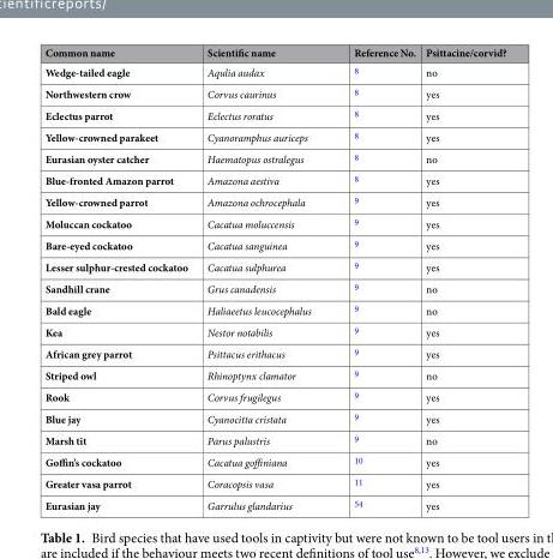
<table><thead><tr><td>Common name</td><td>Scientific name</td><td>Reference No.</td><td>Psittacine/corvid?</td></tr></thead><tbody><tr><td>Wedge-tailed eagle</td><td>Aqulia audax</td><td>8</td><td>no</td></tr><tr><td>Northwestern crow</td><td>Corvus caurinus</td><td>8</td><td>yes</td></tr><tr><td>Eclectus parrot</td><td>Eclectus roratus</td><td>8</td><td>yes</td></tr><tr><td>Yellow-crowned parakeet</td><td>Cyanoramphus auriceps</td><td>8</td><td>yes</td></tr><tr><td>Eurasian oyster catcher</td><td>Haematopus ostralegus</td><td>8</td><td>no</td></tr><tr><td>Blue-fronted Amazon parrot</td><td>Amazona aestiva</td><td>8</td><td>yes</td></tr><tr><td>Yellow-crowned parrot</td><td>Amazona ochrocephala</td><td>9</td><td>yes</td></tr><tr><td>Moluccan cockatoo</td><td>Cacatua moluccensis</td><td>9</td><td>yes</td></tr><tr><td>Bare-eyed cockatoo</td><td>Cacatua sanguinea</td><td>9</td><td>yes</td></tr><tr><td>Lesser sulphur-crested cockatoo</td><td>Cacatua sulphurea</td><td>9</td><td>yes</td></tr><tr><td>Sandhill crane</td><td>Grus canadensis</td><td>9</td><td>no</td></tr><tr><td>Bald eagle</td><td>Haliaeetus leucocephalus</td><td>9</td><td>no</td></tr><tr><td>Kea</td><td>Nestor notabilis</td><td>9</td><td>yes</td></tr><tr><td>African grey parrot</td><td>Psittacus erithacus</td><td>9</td><td>yes</td></tr><tr><td>Striped owl</td><td>Rhinoptynx clamator</td><td>9</td><td>no</td></tr><tr><td>Rook</td><td>Corvus frugilegus</td><td>9</td><td>yes</td></tr><tr><td>Blue jay</td><td>Cyanocitta cristata</td><td>9</td><td>yes</td></tr><tr><td>Marsh tit</td><td>Parus palustris</td><td>9</td><td>no</td></tr><tr><td>Goffin’s cockatoo</td><td>Cacatua goffiniana</td><td>10</td><td>yes</td></tr><tr><td>Greater vasa parrot</td><td>Coracopsis vasa</td><td>11</td><td>yes</td></tr><tr><td>Eurasian jay</td><td>Garrulus glandarius</td><td>54</td><td>yes</td></tr></tbody></table>